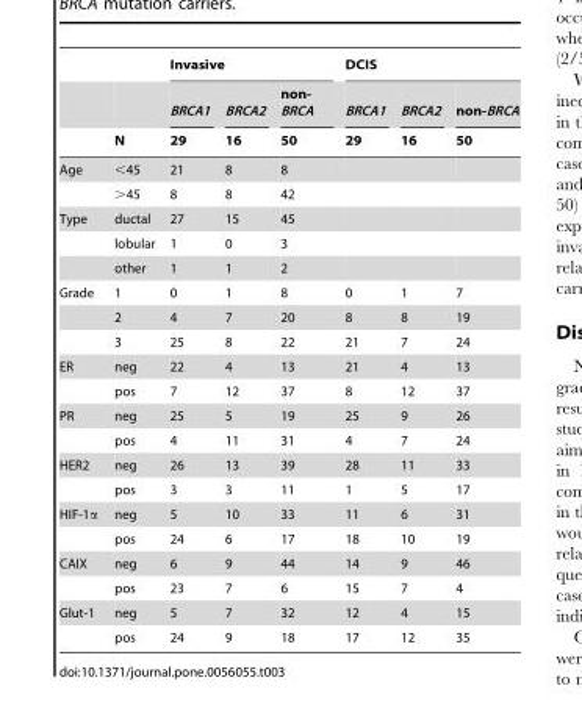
<table><thead><tr><td rowspan="3"></td><td rowspan="3">N</td><td colspan="3">Invasive</td><td colspan="3">DCIS</td></tr><tr><td rowspan="2">BRCA1 29</td><td rowspan="2">BRCA2 16</td><td rowspan="2">non- BRCA 50</td><td rowspan="2">BRCA1 29</td><td rowspan="2">BRCA2 16</td><td rowspan="2">non-BRCA 50</td></tr><tr></tr></thead><tbody><tr><td rowspan="2">Age</td><td>&lt;45</td><td>21</td><td>8</td><td>8</td><td></td><td></td><td></td></tr><tr><td>&gt;45</td><td>8</td><td>8</td><td>42</td><td></td><td></td><td></td></tr><tr><td rowspan="3">Type</td><td>ductal</td><td>27</td><td>15</td><td>45</td><td></td><td></td><td></td></tr><tr><td>lobular</td><td>1</td><td>0</td><td>3</td><td></td><td></td><td></td></tr><tr><td>other</td><td>1</td><td>1</td><td>2</td><td></td><td></td><td></td></tr><tr><td rowspan="3">Grade</td><td>1</td><td>0</td><td>1</td><td>8</td><td>0</td><td>1</td><td>7</td></tr><tr><td>2</td><td>4</td><td>7</td><td>20</td><td>8</td><td>8</td><td>19</td></tr><tr><td>3</td><td>25</td><td>8</td><td>22</td><td>21</td><td>7</td><td>24</td></tr><tr><td rowspan="2">ER</td><td>neg</td><td>22</td><td>4</td><td>13</td><td>21</td><td>4</td><td>13</td></tr><tr><td>pos</td><td>7</td><td>12</td><td>37</td><td>8</td><td>12</td><td>37</td></tr><tr><td rowspan="2">PR</td><td>neg</td><td>25</td><td>5</td><td>19</td><td>25</td><td>9</td><td>26</td></tr><tr><td>pos</td><td>4</td><td>11</td><td>31</td><td>4</td><td>7</td><td>24</td></tr><tr><td rowspan="2">HER2</td><td>neg</td><td>26</td><td>13</td><td>39</td><td>28</td><td>11</td><td>33</td></tr><tr><td>pos</td><td>3</td><td>3</td><td>11</td><td>1</td><td>5</td><td>17</td></tr><tr><td rowspan="2">HIF-1α</td><td>neg</td><td>5</td><td>10</td><td>33</td><td>11</td><td>6</td><td>31</td></tr><tr><td>pos</td><td>24</td><td>6</td><td>17</td><td>18</td><td>10</td><td>19</td></tr><tr><td rowspan="2">CAIX</td><td>neg</td><td>6</td><td>9</td><td>44</td><td>14</td><td>9</td><td>46</td></tr><tr><td>pos</td><td>23</td><td>7</td><td>6</td><td>15</td><td>7</td><td>4</td></tr><tr><td rowspan="2">Glut-1</td><td>neg</td><td>5</td><td>7</td><td>32</td><td>12</td><td>4</td><td>15</td></tr><tr><td>pos</td><td>24</td><td>9</td><td>18</td><td>17</td><td>12</td><td>35</td></tr></tbody></table>